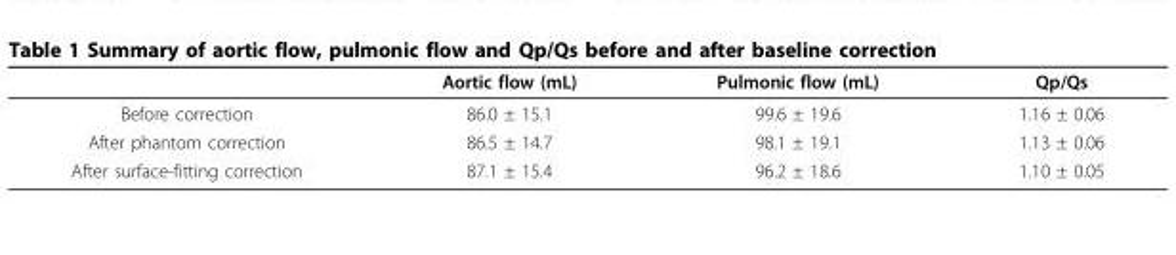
<table><thead><tr><td></td><td>Aortic flow (mL)</td><td>Pulmonic flow (mL)</td><td>Qp/Qs</td></tr></thead><tbody><tr><td>Before correction</td><td>86.0 ± 15.1</td><td>99.6 ± 19.6</td><td>1.16 ± 0.06</td></tr><tr><td>After phantom correction</td><td>86.5 ± 14.7</td><td>98.1 ± 19.1</td><td>1.13 ± 0.06</td></tr><tr><td>After surface-fitting correction</td><td>87.1 ± 15.4</td><td>96.2 ± 18.6</td><td>1.10 ± 0.05</td></tr></tbody></table>